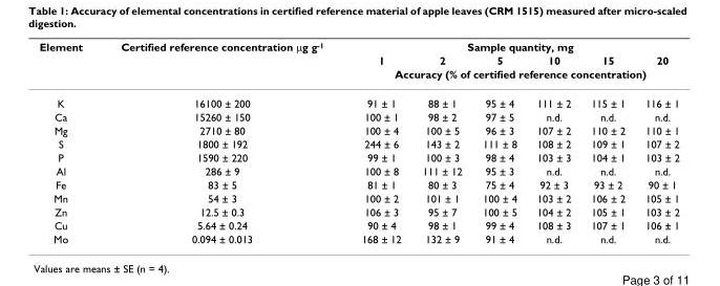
<table><thead><tr><td rowspan="3">Element</td><td rowspan="3">Certified reference concentration μg g<sup>-1</sup></td><td colspan="6">Sample quantity, mg</td></tr><tr><td>1</td><td>2</td><td>5</td><td>10</td><td>15</td><td>20</td></tr><tr><td colspan="6">Accuracy (% of certified reference concentration)</td></tr></thead><tbody><tr><td>K</td><td>16100 ± 200</td><td>91 ± 1</td><td>88 ± 1</td><td>95 ± 4</td><td>111 ± 2</td><td>115 ± 1</td><td>116 ± 1</td></tr><tr><td>Ca</td><td>15260 ± 150</td><td>100 ± 1</td><td>98 ± 2</td><td>97 ± 5</td><td>n.d.</td><td>n.d.</td><td>n.d.</td></tr><tr><td>Mg</td><td>2710 ± 80</td><td>100 ± 4</td><td>100 ± 5</td><td>96 ± 3</td><td>107 ± 2</td><td>110 ± 2</td><td>110 ± 1</td></tr><tr><td>S</td><td>1800 ± 192</td><td>244 ± 6</td><td>143 ± 2</td><td>111 ± 8</td><td>108 ± 2</td><td>109 ± 1</td><td>107 ± 2</td></tr><tr><td>P</td><td>1590 ± 220</td><td>99 ± 1</td><td>100 ± 3</td><td>98 ± 4</td><td>103 ± 3</td><td>104 ± 1</td><td>103 ± 2</td></tr><tr><td>Al</td><td>286 ± 9</td><td>100 ± 8</td><td>111 ± 12</td><td>95 ± 3</td><td>n.d.</td><td>n.d.</td><td>n.d.</td></tr><tr><td>Fe</td><td>83 ± 5</td><td>81 ± 1</td><td>80 ± 3</td><td>75 ± 4</td><td>92 ± 3</td><td>93 ± 2</td><td>90 ± 1</td></tr><tr><td>Mn</td><td>54 ± 3</td><td>100 ± 2</td><td>101 ± 1</td><td>100 ± 4</td><td>103 ± 2</td><td>106 ± 2</td><td>105 ± 1</td></tr><tr><td>Zn</td><td>12.5 ± 0.3</td><td>106 ± 3</td><td>95 ± 7</td><td>100 ± 5</td><td>104 ± 2</td><td>105 ± 1</td><td>103 ± 2</td></tr><tr><td>Cu</td><td>5.64 ± 0.24</td><td>90 ± 4</td><td>98 ± 1</td><td>99 ± 4</td><td>108 ± 3</td><td>107 ± 1</td><td>106 ± 1</td></tr><tr><td>Mo</td><td>0.094 ± 0.013</td><td>168 ± 12</td><td>132 ± 9</td><td>91 ± 4</td><td>n.d.</td><td>n.d.</td><td>n.d.</td></tr></tbody></table>